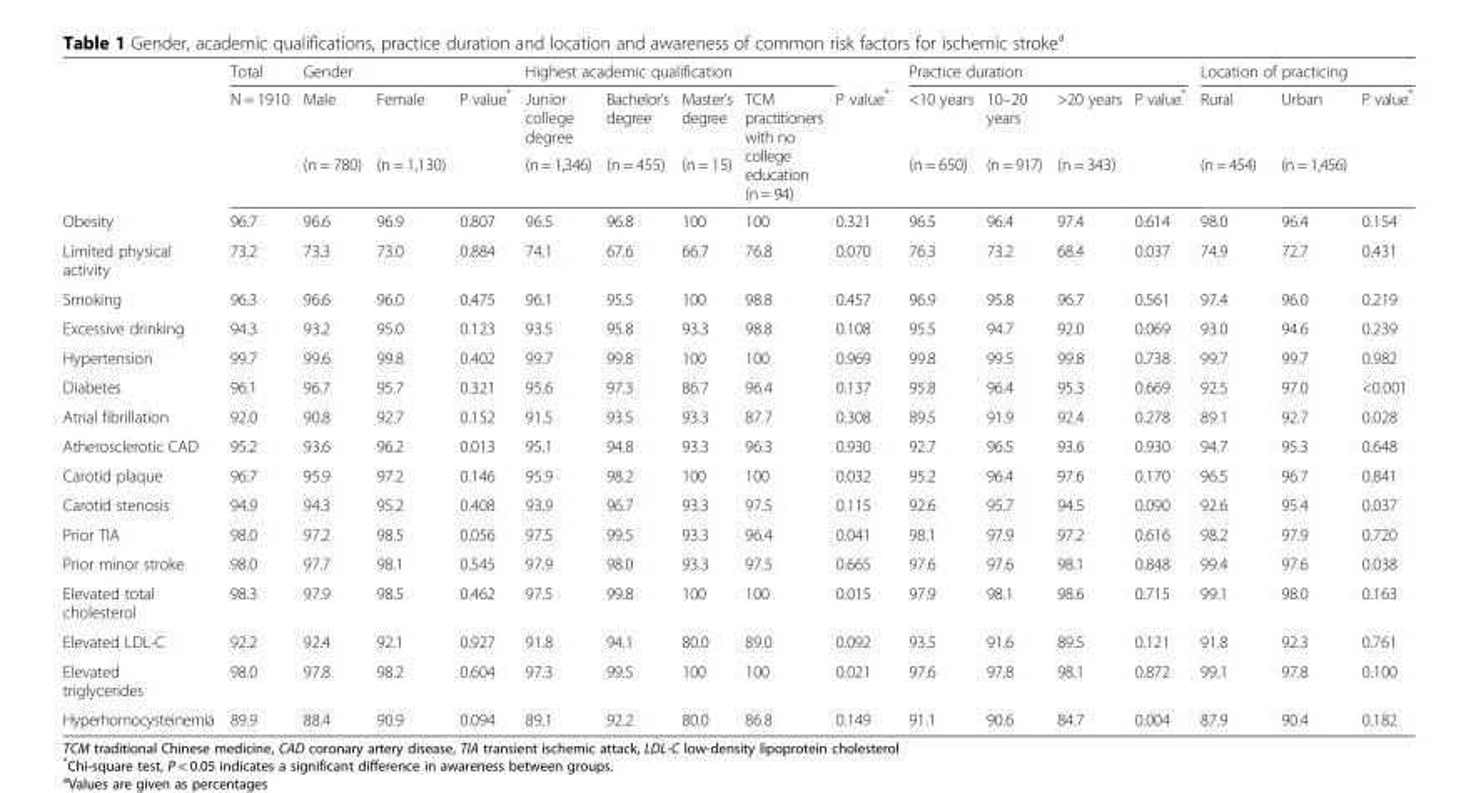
<table><thead><tr><td rowspan="3"></td><td rowspan="3">Total N = 1910</td><td colspan="3">Gender</td><td colspan="4">Highest academic qualification</td><td rowspan="3">P value*</td><td colspan="4">Practice duration</td><td colspan="3">Location of practicing</td></tr><tr><td rowspan="2">Male (n = 780)</td><td rowspan="2">Female (n = 1,130)</td><td rowspan="2">P value*</td><td rowspan="2">Junior college degree (n = 1,346)</td><td rowspan="2">Bachelor’s degree (n = 455)</td><td rowspan="2">Master’s degree (n = 15)</td><td rowspan="2">TCM practitioners with no college education (n = 94)</td><td rowspan="2">&lt;10 years (n = 650)</td><td rowspan="2">10–20 years (n = 917)</td><td rowspan="2">&gt;20 years (n = 343)</td><td rowspan="2">P value*</td><td rowspan="2">Rural (n = 454)</td><td rowspan="2">Urban (n = 1,456)</td><td rowspan="2">P value*</td></tr><tr></tr></thead><tbody><tr><td>Obesity</td><td>96.7</td><td>96.6</td><td>96.9</td><td>0.807</td><td>96.5</td><td>96.8</td><td>100</td><td>100</td><td>0.321</td><td>96.5</td><td>96.4</td><td>97.4</td><td>0.614</td><td>98.0</td><td>96.4</td><td>0.154</td></tr><tr><td>Limited physical activity</td><td>73.2</td><td>73.3</td><td>73.0</td><td>0.884</td><td>74.1</td><td>67.6</td><td>66.7</td><td>76.8</td><td>0.070</td><td>76.3</td><td>73.2</td><td>68.4</td><td>0.037</td><td>74.9</td><td>72.7</td><td>0.431</td></tr><tr><td>Smoking</td><td>96.3</td><td>96.6</td><td>96.0</td><td>0.475</td><td>96.1</td><td>95.5</td><td>100</td><td>98.8</td><td>0.457</td><td>96.9</td><td>95.8</td><td>96.7</td><td>0.561</td><td>97.4</td><td>96.0</td><td>0.219</td></tr><tr><td>Excessive drinking</td><td>94.3</td><td>93.2</td><td>95.0</td><td>0.123</td><td>93.5</td><td>95.8</td><td>93.3</td><td>98.8</td><td>0.108</td><td>95.5</td><td>94.7</td><td>92.0</td><td>0.069</td><td>93.0</td><td>94.6</td><td>0.239</td></tr><tr><td>Hypertension</td><td>99.7</td><td>99.6</td><td>99.8</td><td>0.402</td><td>99.7</td><td>99.8</td><td>100</td><td>100</td><td>0.969</td><td>99.8</td><td>99.5</td><td>99.8</td><td>0.738</td><td>99.7</td><td>99.7</td><td>0.982</td></tr><tr><td>Diabetes</td><td>96.1</td><td>96.7</td><td>95.7</td><td>0.321</td><td>95.6</td><td>97.3</td><td>86.7</td><td>96.4</td><td>0.137</td><td>95.8</td><td>96.4</td><td>95.3</td><td>0.669</td><td>92.5</td><td>97.0</td><td>&lt;0.001</td></tr><tr><td>Atrial fibrillation</td><td>92.0</td><td>90.8</td><td>92.7</td><td>0.152</td><td>91.5</td><td>93.5</td><td>93.3</td><td>87.7</td><td>0.308</td><td>89.5</td><td>91.9</td><td>92.4</td><td>0.278</td><td>89.1</td><td>92.7</td><td>0.028</td></tr><tr><td>Atherosclerotic CAD</td><td>95.2</td><td>93.6</td><td>96.2</td><td>0.013</td><td>95.1</td><td>94.8</td><td>93.3</td><td>96.3</td><td>0.930</td><td>92.7</td><td>96.5</td><td>93.6</td><td>0.930</td><td>94.7</td><td>95.3</td><td>0.648</td></tr><tr><td>Carotid plaque</td><td>96.7</td><td>95.9</td><td>97.2</td><td>0.146</td><td>95.9</td><td>98.2</td><td>100</td><td>100</td><td>0.032</td><td>95.2</td><td>96.4</td><td>97.6</td><td>0.170</td><td>96.5</td><td>96.7</td><td>0.841</td></tr><tr><td>Carotid stenosis</td><td>94.9</td><td>94.3</td><td>95.2</td><td>0.408</td><td>93.9</td><td>96.7</td><td>93.3</td><td>97.5</td><td>0.115</td><td>92.6</td><td>95.7</td><td>94.5</td><td>0.090</td><td>92.6</td><td>95.4</td><td>0.037</td></tr><tr><td>Prior TIA</td><td>98.0</td><td>97.2</td><td>98.5</td><td>0.056</td><td>97.5</td><td>99.5</td><td>93.3</td><td>96.4</td><td>0.041</td><td>98.1</td><td>97.9</td><td>97.2</td><td>0.616</td><td>98.2</td><td>97.9</td><td>0.720</td></tr><tr><td>Prior minor stroke</td><td>98.0</td><td>97.7</td><td>98.1</td><td>0.545</td><td>97.9</td><td>98.0</td><td>93.3</td><td>97.5</td><td>0.665</td><td>97.6</td><td>97.6</td><td>98.1</td><td>0.848</td><td>99.4</td><td>97.6</td><td>0.038</td></tr><tr><td>Elevated total cholesterol</td><td>98.3</td><td>97.9</td><td>98.5</td><td>0.462</td><td>97.5</td><td>99.8</td><td>100</td><td>100</td><td>0.015</td><td>97.9</td><td>98.1</td><td>98.6</td><td>0.715</td><td>99.1</td><td>98.0</td><td>0.163</td></tr><tr><td>Elevated LDL-C</td><td>92.2</td><td>92.4</td><td>92.1</td><td>0.927</td><td>91.8</td><td>94.1</td><td>80.0</td><td>89.0</td><td>0.092</td><td>93.5</td><td>91.6</td><td>89.5</td><td>0.121</td><td>91.8</td><td>92.3</td><td>0.761</td></tr><tr><td>Elevated triglycerides</td><td>98.0</td><td>97.8</td><td>98.2</td><td>0.604</td><td>97.3</td><td>99.5</td><td>100</td><td>100</td><td>0.021</td><td>97.6</td><td>97.8</td><td>98.1</td><td>0.872</td><td>99.1</td><td>97.8</td><td>0.100</td></tr><tr><td>Hyperhomocysteinemia</td><td>89.9</td><td>88.4</td><td>90.9</td><td>0.094</td><td>89.1</td><td>92.2</td><td>80.0</td><td>86.8</td><td>0.149</td><td>91.1</td><td>90.6</td><td>84.7</td><td>0.004</td><td>87.9</td><td>90.4</td><td>0.182</td></tr></tbody></table>